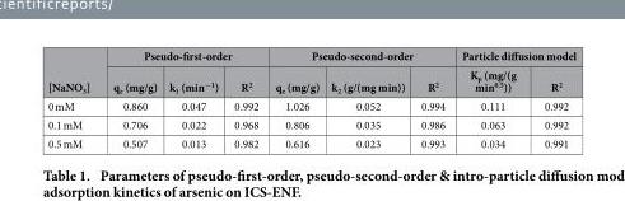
<table><thead><tr><td rowspan="2">[NaNO<sub>3</sub>]</td><td colspan="3">Pseudo-first-order</td><td colspan="3">Pseudo-second-order</td><td colspan="2">Particle diffusion model</td></tr><tr><td>q<sub>e</sub> (mg/g)</td><td>k<sub>1</sub> (min<sup>−1</sup>)</td><td>R<sup>2</sup></td><td>q<sub>e</sub> (mg/g)</td><td>k<sub>2</sub> (g/(mg min))</td><td>R<sup>2</sup></td><td>K<sub>p</sub> (mg/(g min<sup>0.5</sup>))</td><td>R<sup>2</sup></td></tr></thead><tbody><tr><td>0 mM</td><td>0.860</td><td>0.047</td><td>0.992</td><td>1.026</td><td>0.052</td><td>0.994</td><td>0.111</td><td>0.992</td></tr><tr><td>0.1 mM</td><td>0.706</td><td>0.022</td><td>0.968</td><td>0.806</td><td>0.035</td><td>0.986</td><td>0.063</td><td>0.992</td></tr><tr><td>0.5 mM</td><td>0.507</td><td>0.013</td><td>0.982</td><td>0.616</td><td>0.023</td><td>0.993</td><td>0.034</td><td>0.991</td></tr></tbody></table>